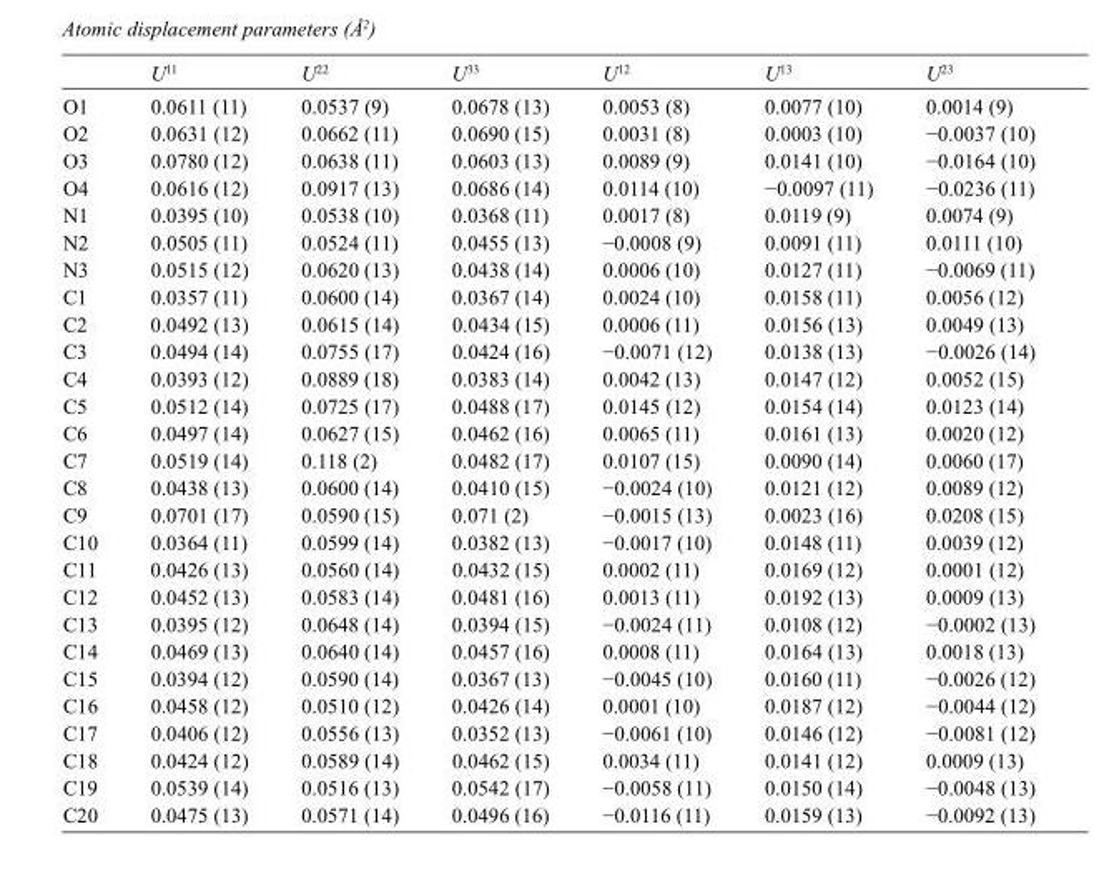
<table><thead><tr><td></td><td>U<sup>11</sup></td><td>U<sup>22</sup></td><td>U<sup>33</sup></td><td>U<sup>12</sup></td><td>U<sup>13</sup></td><td>U<sup>23</sup></td></tr></thead><tbody><tr><td>O1</td><td>0.0611 (11)</td><td>0.0537 (9)</td><td>0.0678 (13)</td><td>0.0053 (8)</td><td>0.0077 (10)</td><td>0.0014 (9)</td></tr><tr><td>O2</td><td>0.0631 (12)</td><td>0.0662 (11)</td><td>0.0690 (15)</td><td>0.0031 (8)</td><td>0.0003 (10)</td><td>−0.0037 (10)</td></tr><tr><td>O3</td><td>0.0780 (12)</td><td>0.0638 (11)</td><td>0.0603 (13)</td><td>0.0089 (9)</td><td>0.0141 (10)</td><td>−0.0164 (10)</td></tr><tr><td>O4</td><td>0.0616 (12)</td><td>0.0917 (13)</td><td>0.0686 (14)</td><td>0.0114 (10)</td><td>−0.0097 (11)</td><td>−0.0236 (11)</td></tr><tr><td>N1</td><td>0.0395 (10)</td><td>0.0538 (10)</td><td>0.0368 (11)</td><td>0.0017 (8)</td><td>0.0119 (9)</td><td>0.0074 (9)</td></tr><tr><td>N2</td><td>0.0505 (11)</td><td>0.0524 (11)</td><td>0.0455 (13)</td><td>−0.0008 (9)</td><td>0.0091 (11)</td><td>0.0111 (10)</td></tr><tr><td>N3</td><td>0.0515 (12)</td><td>0.0620 (13)</td><td>0.0438 (14)</td><td>0.0006 (10)</td><td>0.0127 (11)</td><td>−0.0069 (11)</td></tr><tr><td>C1</td><td>0.0357 (11)</td><td>0.0600 (14)</td><td>0.0367 (14)</td><td>0.0024 (10)</td><td>0.0158 (11)</td><td>0.0056 (12)</td></tr><tr><td>C2</td><td>0.0492 (13)</td><td>0.0615 (14)</td><td>0.0434 (15)</td><td>0.0006 (11)</td><td>0.0156 (13)</td><td>0.0049 (13)</td></tr><tr><td>C3</td><td>0.0494 (14)</td><td>0.0755 (17)</td><td>0.0424 (16)</td><td>−0.0071 (12)</td><td>0.0138 (13)</td><td>−0.0026 (14)</td></tr><tr><td>C4</td><td>0.0393 (12)</td><td>0.0889 (18)</td><td>0.0383 (14)</td><td>0.0042 (13)</td><td>0.0147 (12)</td><td>0.0052 (15)</td></tr><tr><td>C5</td><td>0.0512 (14)</td><td>0.0725 (17)</td><td>0.0488 (17)</td><td>0.0145 (12)</td><td>0.0154 (14)</td><td>0.0123 (14)</td></tr><tr><td>C6</td><td>0.0497 (14)</td><td>0.0627 (15)</td><td>0.0462 (16)</td><td>0.0065 (11)</td><td>0.0161 (13)</td><td>0.0020 (12)</td></tr><tr><td>C7</td><td>0.0519 (14)</td><td>0.118 (2)</td><td>0.0482 (17)</td><td>0.0107 (15)</td><td>0.0090 (14)</td><td>0.0060 (17)</td></tr><tr><td>C8</td><td>0.0438 (13)</td><td>0.0600 (14)</td><td>0.0410 (15)</td><td>−0.0024 (10)</td><td>0.0121 (12)</td><td>0.0089 (12)</td></tr><tr><td>C9</td><td>0.0701 (17)</td><td>0.0590 (15)</td><td>0.071 (2)</td><td>−0.0015 (13)</td><td>0.0023 (16)</td><td>0.0208 (15)</td></tr><tr><td>C10</td><td>0.0364 (11)</td><td>0.0599 (14)</td><td>0.0382 (13)</td><td>−0.0017 (10)</td><td>0.0148 (11)</td><td>0.0039 (12)</td></tr><tr><td>C11</td><td>0.0426 (13)</td><td>0.0560 (14)</td><td>0.0432 (15)</td><td>0.0002 (11)</td><td>0.0169 (12)</td><td>0.0001 (12)</td></tr><tr><td>C12</td><td>0.0452 (13)</td><td>0.0583 (14)</td><td>0.0481 (16)</td><td>0.0013 (11)</td><td>0.0192 (13)</td><td>0.0009 (13)</td></tr><tr><td>C13</td><td>0.0395 (12)</td><td>0.0648 (14)</td><td>0.0394 (15)</td><td>−0.0024 (11)</td><td>0.0108 (12)</td><td>−0.0002 (13)</td></tr><tr><td>C14</td><td>0.0469 (13)</td><td>0.0640 (14)</td><td>0.0457 (16)</td><td>0.0008 (11)</td><td>0.0164 (13)</td><td>0.0018 (13)</td></tr><tr><td>C15</td><td>0.0394 (12)</td><td>0.0590 (14)</td><td>0.0367 (13)</td><td>−0.0045 (10)</td><td>0.0160 (11)</td><td>−0.0026 (12)</td></tr><tr><td>C16</td><td>0.0458 (12)</td><td>0.0510 (12)</td><td>0.0426 (14)</td><td>0.0001 (10)</td><td>0.0187 (12)</td><td>−0.0044 (12)</td></tr><tr><td>C17</td><td>0.0406 (12)</td><td>0.0556 (13)</td><td>0.0352 (13)</td><td>−0.0061 (10)</td><td>0.0146 (12)</td><td>−0.0081 (12)</td></tr><tr><td>C18</td><td>0.0424 (12)</td><td>0.0589 (14)</td><td>0.0462 (15)</td><td>0.0034 (11)</td><td>0.0141 (12)</td><td>0.0009 (13)</td></tr><tr><td>C19</td><td>0.0539 (14)</td><td>0.0516 (13)</td><td>0.0542 (17)</td><td>−0.0058 (11)</td><td>0.0150 (14)</td><td>−0.0048 (13)</td></tr><tr><td>C20</td><td>0.0475 (13)</td><td>0.0571 (14)</td><td>0.0496 (16)</td><td>−0.0116 (11)</td><td>0.0159 (13)</td><td>−0.0092 (13)</td></tr></tbody></table>